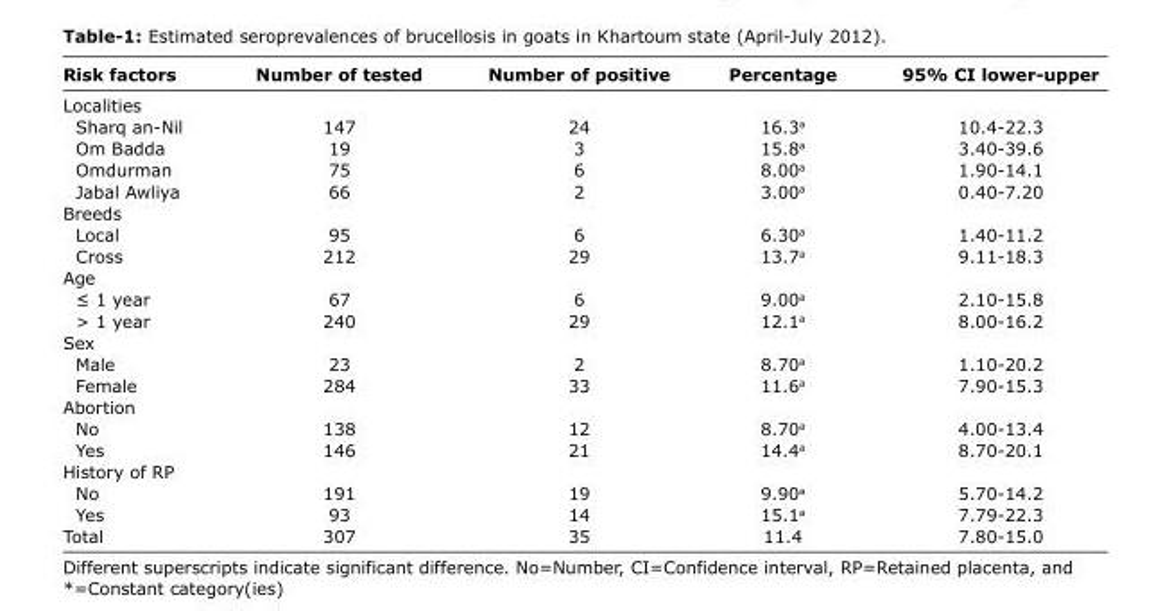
<table><thead><tr><td>Risk factors</td><td>Number of tested</td><td>Number of positive</td><td>Percentage</td><td>95% CI lower-upper</td></tr></thead><tbody><tr><td colspan="5">Localities</td></tr><tr><td>Sharq an-Nil</td><td>147</td><td>24</td><td>16.3<sup>a</sup></td><td>10.4-22.3</td></tr><tr><td>Om Badda</td><td>19</td><td>3</td><td>15.8<sup>a</sup></td><td>3.40-39.6</td></tr><tr><td>Omdurman</td><td>75</td><td>6</td><td>8.00<sup>a</sup></td><td>1.90-14.1</td></tr><tr><td>Jabal Awliya</td><td>66</td><td>2</td><td>3.00<sup>a</sup></td><td>0.40-7.20</td></tr><tr><td colspan="5">Breeds</td></tr><tr><td>Local</td><td>95</td><td>6</td><td>6.30<sup>a</sup></td><td>1.40-11.2</td></tr><tr><td>Cross</td><td>212</td><td>29</td><td>13.7<sup>a</sup></td><td>9.11-18.3</td></tr><tr><td colspan="5">Age</td></tr><tr><td>≤ 1 year</td><td>67</td><td>6</td><td>9.00<sup>a</sup></td><td>2.10-15.8</td></tr><tr><td>&gt; 1 year</td><td>240</td><td>29</td><td>12.1<sup>a</sup></td><td>8.00-16.2</td></tr><tr><td colspan="5">Sex</td></tr><tr><td>Male</td><td>23</td><td>2</td><td>8.70<sup>a</sup></td><td>1.10-20.2</td></tr><tr><td>Female</td><td>284</td><td>33</td><td>11.6<sup>a</sup></td><td>7.90-15.3</td></tr><tr><td colspan="5">Abortion</td></tr><tr><td>No</td><td>138</td><td>12</td><td>8.70<sup>a</sup></td><td>4.00-13.4</td></tr><tr><td>Yes</td><td>146</td><td>21</td><td>14.4<sup>a</sup></td><td>8.70-20.1</td></tr><tr><td colspan="5">History of RP</td></tr><tr><td>No</td><td>191</td><td>19</td><td>9.90<sup>a</sup></td><td>5.70-14.2</td></tr><tr><td>Yes</td><td>93</td><td>14</td><td>15.1<sup>a</sup></td><td>7.79-22.3</td></tr><tr><td>Total</td><td>307</td><td>35</td><td>11.4</td><td>7.80-15.0</td></tr></tbody></table>